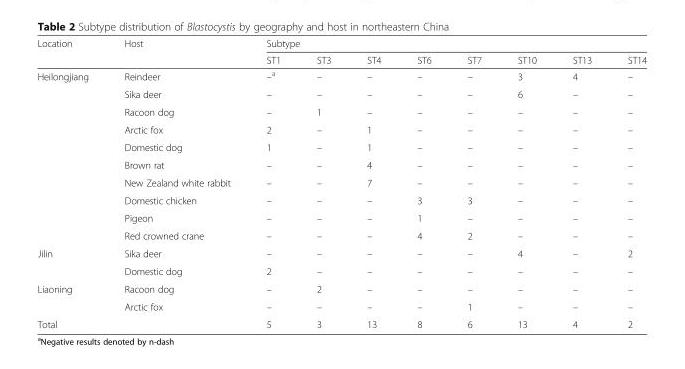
<table><thead><tr><td rowspan="2">Location</td><td rowspan="2">Host</td><td colspan="8">Subtype</td></tr><tr><td>ST1</td><td>ST3</td><td>ST4</td><td>ST6</td><td>ST7</td><td>ST10</td><td>ST13</td><td>ST14</td></tr></thead><tbody><tr><td rowspan="10">Heilongjiang</td><td>Reindeer</td><td>–<sup>a</sup></td><td>–</td><td>–</td><td>–</td><td>–</td><td>3</td><td>4</td><td>–</td></tr><tr><td>Sika deer</td><td>–</td><td>–</td><td>–</td><td>–</td><td>–</td><td>6</td><td>–</td><td>–</td></tr><tr><td>Racoon dog</td><td>–</td><td>1</td><td>–</td><td>–</td><td>–</td><td>–</td><td>–</td><td>–</td></tr><tr><td>Arctic fox</td><td>2</td><td>–</td><td>1</td><td>–</td><td>–</td><td>–</td><td>–</td><td>–</td></tr><tr><td>Domestic dog</td><td>1</td><td>–</td><td>1</td><td>–</td><td>–</td><td>–</td><td>–</td><td>–</td></tr><tr><td>Brown rat</td><td>–</td><td>–</td><td>4</td><td>–</td><td>–</td><td>–</td><td>–</td><td>–</td></tr><tr><td>New Zealand white rabbit</td><td>–</td><td>–</td><td>7</td><td>–</td><td>–</td><td>–</td><td>–</td><td>–</td></tr><tr><td>Domestic chicken</td><td>–</td><td>–</td><td>–</td><td>3</td><td>3</td><td>–</td><td>–</td><td>–</td></tr><tr><td>Pigeon</td><td>–</td><td>–</td><td>–</td><td>1</td><td>–</td><td>–</td><td>–</td><td>–</td></tr><tr><td>Red crowned crane</td><td>–</td><td>–</td><td>–</td><td>4</td><td>2</td><td>–</td><td>–</td><td>–</td></tr><tr><td rowspan="2">Jilin</td><td>Sika deer</td><td>–</td><td>–</td><td>–</td><td>–</td><td>–</td><td>4</td><td>–</td><td>2</td></tr><tr><td>Domestic dog</td><td>2</td><td>–</td><td>–</td><td>–</td><td>–</td><td>–</td><td>–</td><td>–</td></tr><tr><td rowspan="2">Liaoning</td><td>Racoon dog</td><td>–</td><td>2</td><td>–</td><td>–</td><td>–</td><td>–</td><td>–</td><td>–</td></tr><tr><td>Arctic fox</td><td>–</td><td>–</td><td>–</td><td>–</td><td>1</td><td>–</td><td>–</td><td>–</td></tr><tr><td colspan="2">Total</td><td>5</td><td>3</td><td>13</td><td>8</td><td>6</td><td>13</td><td>4</td><td>2</td></tr></tbody></table>